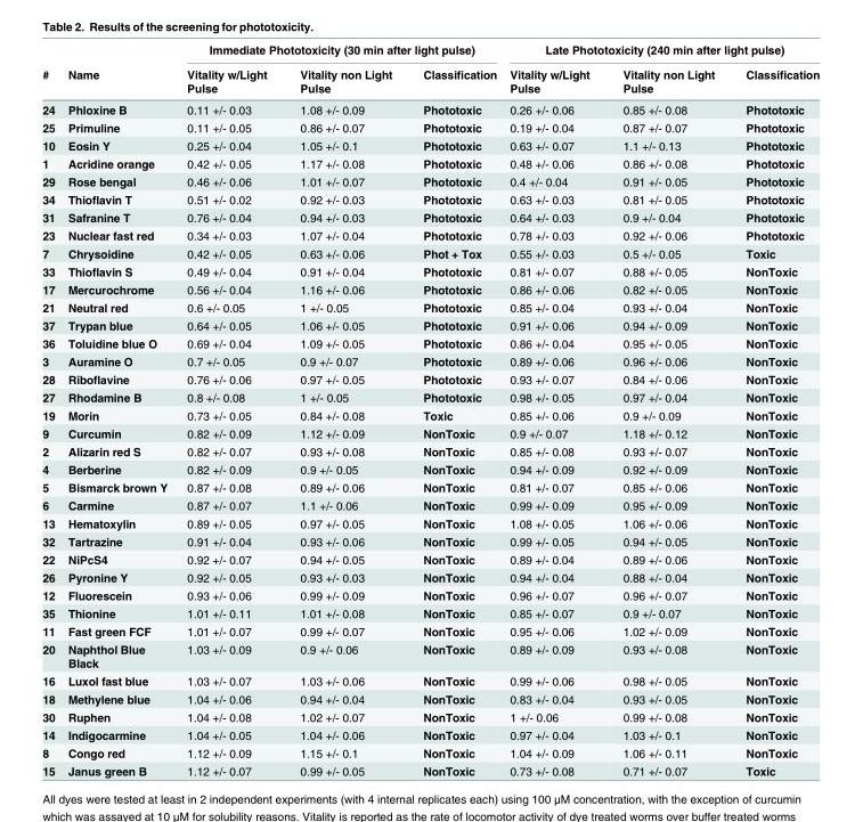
<table><thead><tr><td rowspan="2">#</td><td rowspan="2">Name</td><td colspan="3">Immediate Phototoxicity (30 min after light pulse)</td><td colspan="3">Late Phototoxicity (240 min after light pulse)</td></tr><tr><td>Vitality w/Light Pulse</td><td>Vitality non Light Pulse</td><td>Classification</td><td>Vitality w/Light Pulse</td><td>Vitality non Light Pulse</td><td>Classification</td></tr></thead><tbody><tr><td>24</td><td>Phloxine B</td><td>0.11 +/- 0.03</td><td>1.08 +/- 0.09</td><td>Phototoxic</td><td>0.26 +/- 0.06</td><td>0.85 +/- 0.08</td><td>Phototoxic</td></tr><tr><td>25</td><td>Primuline</td><td>0.11 +/- 0.05</td><td>0.86 +/- 0.07</td><td>Phototoxic</td><td>0.19 +/- 0.04</td><td>0.87 +/- 0.07</td><td>Phototoxic</td></tr><tr><td>10</td><td>Eosin Y</td><td>0.25 +/- 0.04</td><td>1.05 +/- 0.1</td><td>Phototoxic</td><td>0.63 +/- 0.07</td><td>1.1 +/- 0.13</td><td>Phototoxic</td></tr><tr><td>1</td><td>Acridine orange</td><td>0.42 +/- 0.05</td><td>1.17 +/- 0.08</td><td>Phototoxic</td><td>0.48 +/- 0.06</td><td>0.86 +/- 0.08</td><td>Phototoxic</td></tr><tr><td>29</td><td>Rose bengal</td><td>0.46 +/- 0.06</td><td>1.01 +/- 0.07</td><td>Phototoxic</td><td>0.4 +/- 0.04</td><td>0.91 +/- 0.05</td><td>Phototoxic</td></tr><tr><td>34</td><td>Thioflavin T</td><td>0.51 +/- 0.02</td><td>0.92 +/- 0.03</td><td>Phototoxic</td><td>0.63 +/- 0.03</td><td>0.81 +/- 0.05</td><td>Phototoxic</td></tr><tr><td>31</td><td>Safranine T</td><td>0.76 +/- 0.04</td><td>0.94 +/- 0.03</td><td>Phototoxic</td><td>0.64 +/- 0.03</td><td>0.9 +/- 0.04</td><td>Phototoxic</td></tr><tr><td>23</td><td>Nuclear fast red</td><td>0.34 +/- 0.03</td><td>1.07 +/- 0.04</td><td>Phototoxic</td><td>0.78 +/- 0.03</td><td>0.92 +/- 0.06</td><td>Phototoxic</td></tr><tr><td>7</td><td>Chrysoidine</td><td>0.42 +/- 0.05</td><td>0.63 +/- 0.06</td><td>Phot + Tox</td><td>0.55 +/- 0.03</td><td>0.5 +/- 0.05</td><td>Toxic</td></tr><tr><td>33</td><td>Thioflavin S</td><td>0.49 +/- 0.04</td><td>0.91 +/- 0.04</td><td>Phototoxic</td><td>0.81 +/- 0.07</td><td>0.88 +/- 0.05</td><td>NonToxic</td></tr><tr><td>17</td><td>Mercurochrome</td><td>0.56 +/- 0.04</td><td>1.16 +/- 0.06</td><td>Phototoxic</td><td>0.86 +/- 0.06</td><td>0.82 +/- 0.05</td><td>NonToxic</td></tr><tr><td>21</td><td>Neutral red</td><td>0.6 +/- 0.05</td><td>1 +/- 0.05</td><td>Phototoxic</td><td>0.85 +/- 0.04</td><td>0.93 +/- 0.04</td><td>NonToxic</td></tr><tr><td>37</td><td>Trypan blue</td><td>0.64 +/- 0.05</td><td>1.06 +/- 0.05</td><td>Phototoxic</td><td>0.91 +/- 0.06</td><td>0.94 +/- 0.09</td><td>NonToxic</td></tr><tr><td>36</td><td>Toluidine blue O</td><td>0.69 +/- 0.04</td><td>1.09 +/- 0.05</td><td>Phototoxic</td><td>0.86 +/- 0.04</td><td>0.95 +/- 0.05</td><td>NonToxic</td></tr><tr><td>3</td><td>Auramine O</td><td>0.7 +/- 0.05</td><td>0.9 +/- 0.07</td><td>Phototoxic</td><td>0.89 +/- 0.06</td><td>0.96 +/- 0.06</td><td>NonToxic</td></tr><tr><td>28</td><td>Riboflavine</td><td>0.76 +/- 0.06</td><td>0.97 +/- 0.05</td><td>Phototoxic</td><td>0.93 +/- 0.07</td><td>0.84 +/- 0.06</td><td>NonToxic</td></tr><tr><td>27</td><td>Rhodamine B</td><td>0.8 +/- 0.08</td><td>1 +/- 0.05</td><td>Phototoxic</td><td>0.98 +/- 0.05</td><td>0.97 +/- 0.04</td><td>NonToxic</td></tr><tr><td>19</td><td>Morin</td><td>0.73 +/- 0.05</td><td>0.84 +/- 0.08</td><td>Toxic</td><td>0.85 +/- 0.06</td><td>0.9 +/- 0.09</td><td>NonToxic</td></tr><tr><td>9</td><td>Curcumin</td><td>0.82 +/- 0.09</td><td>1.12 +/- 0.09</td><td>NonToxic</td><td>0.9 +/- 0.07</td><td>1.18 +/- 0.12</td><td>NonToxic</td></tr><tr><td>2</td><td>Alizarin red S</td><td>0.82 +/- 0.07</td><td>0.93 +/- 0.08</td><td>NonToxic</td><td>0.85 +/- 0.08</td><td>0.93 +/- 0.07</td><td>NonToxic</td></tr><tr><td>4</td><td>Berberine</td><td>0.82 +/- 0.09</td><td>0.9 +/- 0.05</td><td>NonToxic</td><td>0.94 +/- 0.09</td><td>0.92 +/- 0.09</td><td>NonToxic</td></tr><tr><td>5</td><td>Bismarck brown Y</td><td>0.87 +/- 0.08</td><td>0.89 +/- 0.06</td><td>NonToxic</td><td>0.81 +/- 0.07</td><td>0.85 +/- 0.06</td><td>NonToxic</td></tr><tr><td>6</td><td>Carmine</td><td>0.87 +/- 0.07</td><td>1.1 +/- 0.06</td><td>NonToxic</td><td>0.99 +/- 0.09</td><td>0.95 +/- 0.09</td><td>NonToxic</td></tr><tr><td>13</td><td>Hematoxylin</td><td>0.89 +/- 0.05</td><td>0.97 +/- 0.05</td><td>NonToxic</td><td>1.08 +/- 0.05</td><td>1.06 +/- 0.06</td><td>NonToxic</td></tr><tr><td>32</td><td>Tartrazine</td><td>0.91 +/- 0.04</td><td>0.93 +/- 0.06</td><td>NonToxic</td><td>0.99 +/- 0.05</td><td>0.94 +/- 0.05</td><td>NonToxic</td></tr><tr><td>22</td><td>NiPcS4</td><td>0.92 +/- 0.07</td><td>0.94 +/- 0.05</td><td>NonToxic</td><td>0.89 +/- 0.04</td><td>0.89 +/- 0.06</td><td>NonToxic</td></tr><tr><td>26</td><td>Pyronine Y</td><td>0.92 +/- 0.05</td><td>0.93 +/- 0.03</td><td>NonToxic</td><td>0.94 +/- 0.04</td><td>0.88 +/- 0.04</td><td>NonToxic</td></tr><tr><td>12</td><td>Fluorescein</td><td>0.93 +/- 0.06</td><td>0.99 +/- 0.09</td><td>NonToxic</td><td>0.96 +/- 0.07</td><td>0.96 +/- 0.07</td><td>NonToxic</td></tr><tr><td>35</td><td>Thionine</td><td>1.01 +/- 0.11</td><td>1.01 +/- 0.08</td><td>NonToxic</td><td>0.85 +/- 0.07</td><td>0.9 +/- 0.07</td><td>NonToxic</td></tr><tr><td>11</td><td>Fast green FCF</td><td>1.01 +/- 0.07</td><td>0.99 +/- 0.07</td><td>NonToxic</td><td>0.95 +/- 0.06</td><td>1.02 +/- 0.09</td><td>NonToxic</td></tr><tr><td>20</td><td>Naphthol Blue Black</td><td>1.03 +/- 0.09</td><td>0.9 +/- 0.06</td><td>NonToxic</td><td>0.89 +/- 0.09</td><td>0.93 +/- 0.08</td><td>NonToxic</td></tr><tr><td>16</td><td>Luxol fast blue</td><td>1.03 +/- 0.07</td><td>1.03 +/- 0.06</td><td>NonToxic</td><td>0.99 +/- 0.06</td><td>0.98 +/- 0.05</td><td>NonToxic</td></tr><tr><td>18</td><td>Methylene blue</td><td>1.04 +/- 0.06</td><td>0.94 +/- 0.04</td><td>NonToxic</td><td>0.83 +/- 0.04</td><td>0.93 +/- 0.05</td><td>NonToxic</td></tr><tr><td>30</td><td>Ruphen</td><td>1.04 +/- 0.08</td><td>1.02 +/- 0.07</td><td>NonToxic</td><td>1 +/- 0.06</td><td>0.99 +/- 0.08</td><td>NonToxic</td></tr><tr><td>14</td><td>Indigocarmine</td><td>1.04 +/- 0.05</td><td>1.04 +/- 0.06</td><td>NonToxic</td><td>0.97 +/- 0.04</td><td>1.03 +/- 0.1</td><td>NonToxic</td></tr><tr><td>8</td><td>Congo red</td><td>1.12 +/- 0.09</td><td>1.15 +/- 0.1</td><td>NonToxic</td><td>1.04 +/- 0.09</td><td>1.06 +/- 0.11</td><td>NonToxic</td></tr><tr><td>15</td><td>Janus green B</td><td>1.12 +/- 0.07</td><td>0.99 +/- 0.05</td><td>NonToxic</td><td>0.73 +/- 0.08</td><td>0.71 +/- 0.07</td><td>Toxic</td></tr></tbody></table>